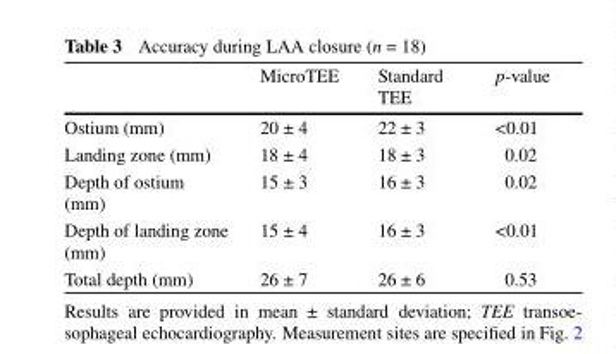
<table><thead><tr><td></td><td>MicroTEE</td><td>Standard TEE</td><td>p-value</td></tr></thead><tbody><tr><td>Ostium (mm)</td><td>20 ± 4</td><td>22 ± 3</td><td>&lt;0.01</td></tr><tr><td>Landing zone (mm)</td><td>18 ± 4</td><td>18 ± 3</td><td>0.02</td></tr><tr><td>Depth of ostium (mm)</td><td>15 ± 3</td><td>16 ± 3</td><td>0.02</td></tr><tr><td>Depth of landing zone (mm)</td><td>15 ± 4</td><td>16 ± 3</td><td>&lt;0.01</td></tr><tr><td>Total depth (mm)</td><td>26 ± 7</td><td>26 ± 6</td><td>0.53</td></tr></tbody></table>